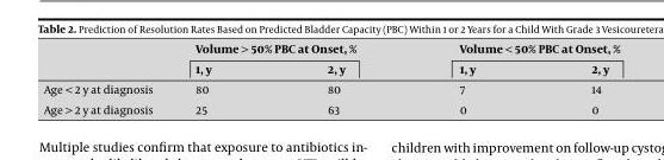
<table><thead><tr><td rowspan="2"></td><td colspan="2">Volume &gt; 50% PBC at Onset, %</td><td colspan="2">Volume &lt; 50% PBC at Onset, %</td></tr><tr><td>1, y</td><td>2, y</td><td>1, y</td><td>2, y</td></tr></thead><tbody><tr><td>Age &lt; 2 y at diagnosis</td><td>80</td><td>80</td><td>7</td><td>14</td></tr><tr><td>Age &gt; 2 y at diagnosis</td><td>25</td><td>63</td><td>0</td><td>0</td></tr></tbody></table>